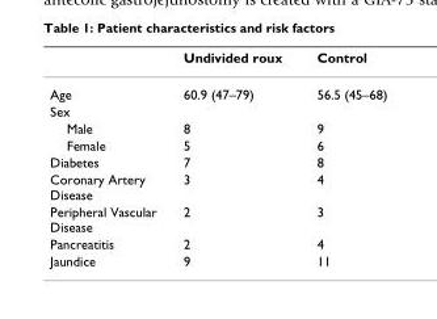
<table><thead><tr><td></td><td>Undivided roux</td><td>Control</td></tr></thead><tbody><tr><td>Age</td><td>60.9 (47–79)</td><td>56.5 (45–68)</td></tr><tr><td colspan="3">Sex</td></tr><tr><td>Male</td><td>8</td><td>9</td></tr><tr><td>Female</td><td>5</td><td>6</td></tr><tr><td>Diabetes</td><td>7</td><td>8</td></tr><tr><td>Coronary Artery Disease</td><td>3</td><td>4</td></tr><tr><td>Peripheral Vascular Disease</td><td>2</td><td>3</td></tr><tr><td>Pancreatitis</td><td>2</td><td>4</td></tr><tr><td>Jaundice</td><td>9</td><td>11</td></tr></tbody></table>